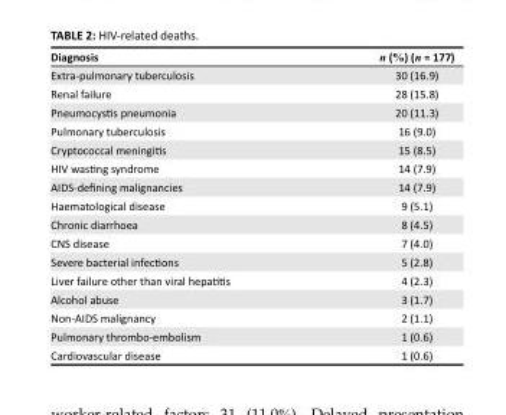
<table><thead><tr><td>Diagnosis</td><td>n (%) (n = 177)</td></tr></thead><tbody><tr><td>Extra-pulmonary tuberculosis</td><td>30 (16.9)</td></tr><tr><td>Renal failure</td><td>28 (15.8)</td></tr><tr><td>Pneumocystis pneumonia</td><td>20 (11.3)</td></tr><tr><td>Pulmonary tuberculosis</td><td>16 (9.0)</td></tr><tr><td>Cryptococcal meningitis</td><td>15 (8.5)</td></tr><tr><td>HIV wasting syndrome</td><td>14 (7.9)</td></tr><tr><td>AIDS-defining malignancies</td><td>14 (7.9)</td></tr><tr><td>Haematological disease</td><td>9 (5.1)</td></tr><tr><td>Chronic diarrhoea</td><td>8 (4.5)</td></tr><tr><td>CNS disease</td><td>7 (4.0)</td></tr><tr><td>Severe bacterial infections</td><td>5 (2.8)</td></tr><tr><td>Liver failure other than viral hepatitis</td><td>4 (2.3)</td></tr><tr><td>Alcohol abuse</td><td>3 (1.7)</td></tr><tr><td>Non-AIDS malignancy</td><td>2 (1.1)</td></tr><tr><td>Pulmonary thrombo-embolism</td><td>1 (0.6)</td></tr><tr><td>Cardiovascular disease</td><td>1 (0.6)</td></tr></tbody></table>